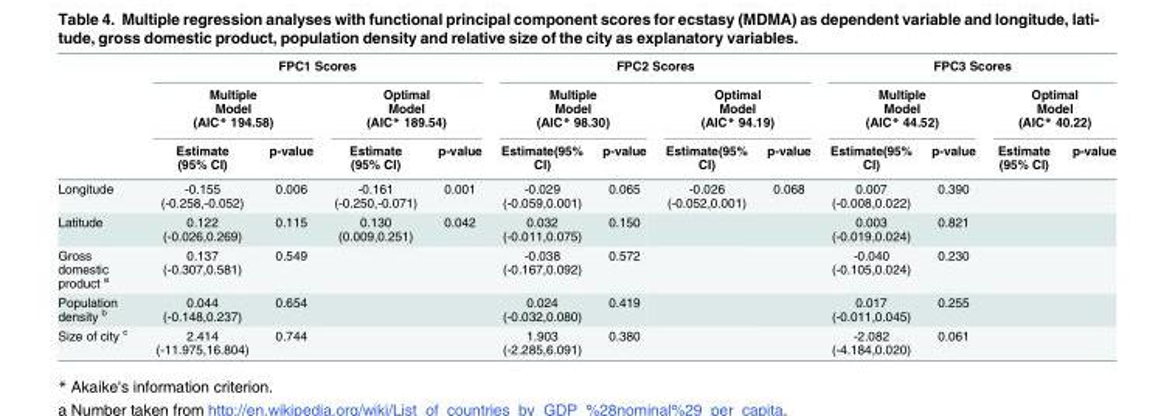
<table><thead><tr><td rowspan="3"></td><td colspan="4">FPC1 Scores</td><td colspan="4">FPC2 Scores</td><td colspan="4">FPC3 Scores</td></tr><tr><td colspan="2">Multiple Model (AIC* 194.58)</td><td colspan="2">Optimal Model (AIC* 189.54)</td><td colspan="2">Multiple Model (AIC* 98.30)</td><td colspan="2">Optimal Model (AIC* 94.19)</td><td colspan="2">Multiple Model (AIC* 44.52)</td><td colspan="2">Optimal Model (AIC* 40.22)</td></tr><tr><td>Estimate (95% CI)</td><td>p-value</td><td>Estimate (95% CI)</td><td>p-value</td><td>Estimate(95% CI)</td><td>p-value</td><td>Estimate(95% CI)</td><td>p-value</td><td>Estimate(95% CI)</td><td>p-value</td><td>Estimate (95% CI)</td><td>p-value</td></tr></thead><tbody><tr><td>Longitude</td><td>-0.155 (-0.258,-0.052)</td><td>0.006</td><td>-0.161 (-0.250,-0.071)</td><td>0.001</td><td>-0.029 (-0.059,0.001)</td><td>0.065</td><td>-0.026 (-0.052,0.001)</td><td>0.068</td><td>0.007 (-0.008,0.022)</td><td>0.390</td><td></td><td></td></tr><tr><td>Latitude</td><td>0.122 (-0.026,0.269)</td><td>0.115</td><td>0.130 (0.009,0.251)</td><td>0.042</td><td>0.032 (-0.011,0.075)</td><td>0.150</td><td></td><td></td><td>0.003 (-0.019,0.024)</td><td>0.821</td><td></td><td></td></tr><tr><td>Gross domestic product <sup>a</sup></td><td>0.137 (-0.307,0.581)</td><td>0.549</td><td></td><td></td><td>-0.038 (-0.167,0.092)</td><td>0.572</td><td></td><td></td><td>-0.040 (-0.105,0.024)</td><td>0.230</td><td></td><td></td></tr><tr><td>Population density <sup>b</sup></td><td>0.044 (-0.148,0.237)</td><td>0.654</td><td></td><td></td><td>0.024 (-0.032,0.080)</td><td>0.419</td><td></td><td></td><td>0.017 (-0.011,0.045)</td><td>0.255</td><td></td><td></td></tr><tr><td>Size of city <sup>c</sup></td><td>2.414 (-11.975,16.804)</td><td>0.744</td><td></td><td></td><td>1.903 (-2.285,6.091)</td><td>0.380</td><td></td><td></td><td>-2.082 (-4.184,0.020)</td><td>0.061</td><td></td><td></td></tr></tbody></table>